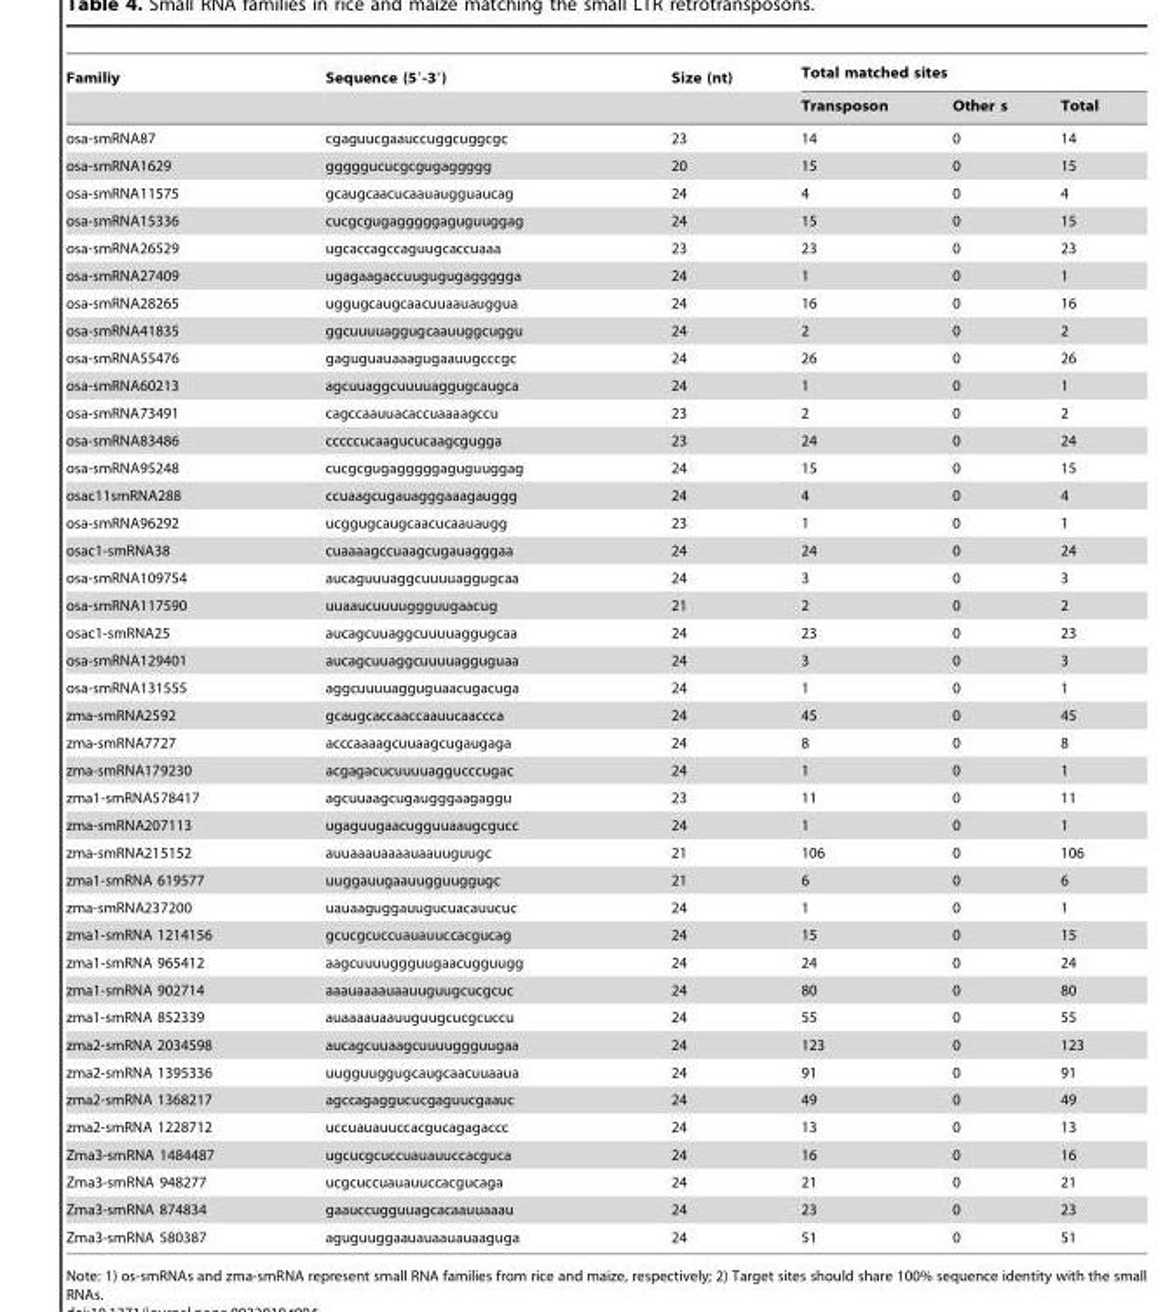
<table><thead><tr><td rowspan="2">Familiy</td><td rowspan="2">Sequence (5′-3′)</td><td rowspan="2">Size (nt)</td><td colspan="3">Total matched sites</td></tr><tr><td>Transposon</td><td>Other s</td><td>Total</td></tr></thead><tbody><tr><td>osa-smRNA87</td><td>cgaguucgaauccuggcuggcgc</td><td>23</td><td>14</td><td>0</td><td>14</td></tr><tr><td>osa-smRNA1629</td><td>gggggucucgcgugaggggg</td><td>20</td><td>15</td><td>0</td><td>15</td></tr><tr><td>osa-smRNA11575</td><td>gcaugcaacucaauaugguaucag</td><td>24</td><td>4</td><td>0</td><td>4</td></tr><tr><td>osa-smRNA15336</td><td>cucgcgugagggggaguguuggag</td><td>24</td><td>15</td><td>0</td><td>15</td></tr><tr><td>osa-smRNA26529</td><td>ugcaccagccaguugcaccuaaa</td><td>23</td><td>23</td><td>0</td><td>23</td></tr><tr><td>osa-smRNA27409</td><td>ugagaagaccuugugugaggggga</td><td>24</td><td>1</td><td>0</td><td>1</td></tr><tr><td>osa-smRNA28265</td><td>uggugcaugcaacuuaauauggua</td><td>24</td><td>16</td><td>0</td><td>16</td></tr><tr><td>osa-smRNA41835</td><td>ggcuuuuaggugcaauuggcuggu</td><td>24</td><td>2</td><td>0</td><td>2</td></tr><tr><td>osa-smRNA55476</td><td>gaguguauaaagugaauugcccgc</td><td>24</td><td>26</td><td>0</td><td>26</td></tr><tr><td>osa-smRNA60213</td><td>agcuuaggcuuuuaggugcaugca</td><td>24</td><td>1</td><td>0</td><td>1</td></tr><tr><td>osa-smRNA73491</td><td>cagccaauuacaccuaaaagccu</td><td>23</td><td>2</td><td>0</td><td>2</td></tr><tr><td>osa-smRNA83486</td><td>cccccucaagucucaagcgugga</td><td>23</td><td>24</td><td>0</td><td>24</td></tr><tr><td>osa-smRNA95248</td><td>cucgcgugagggggaguguuggag</td><td>24</td><td>15</td><td>0</td><td>15</td></tr><tr><td>osac11smRNA288</td><td>ccuaagcugauagggaaagauggg</td><td>24</td><td>4</td><td>0</td><td>4</td></tr><tr><td>osa-smRNA96292</td><td>ucggugcaugcaacucaauaugg</td><td>23</td><td>1</td><td>0</td><td>1</td></tr><tr><td>osac1-smRNA38</td><td>cuaaaagccuaagcugauagggaa</td><td>24</td><td>24</td><td>0</td><td>24</td></tr><tr><td>osa-smRNA109754</td><td>aucaguuuaggcuuuuaggugcaa</td><td>24</td><td>3</td><td>0</td><td>3</td></tr><tr><td>osa-smRNA117590</td><td>uuaaucuuuuggguugaacug</td><td>21</td><td>2</td><td>0</td><td>2</td></tr><tr><td>osac1-smRNA25</td><td>aucagcuuaggcuuuuaggugcaa</td><td>24</td><td>23</td><td>0</td><td>23</td></tr><tr><td>osa-smRNA129401</td><td>aucagcuuaggcuuuuagguguaa</td><td>24</td><td>3</td><td>0</td><td>3</td></tr><tr><td>osa-smRNA131555</td><td>aggcuuuuagguguaacugacuga</td><td>24</td><td>1</td><td>0</td><td>1</td></tr><tr><td>zma-smRNA2592</td><td>gcaugcaccaaccaauucaaccca</td><td>24</td><td>45</td><td>0</td><td>45</td></tr><tr><td>zma-smRNA7727</td><td>acccaaaagcuuaagcugaugaga</td><td>24</td><td>8</td><td>0</td><td>8</td></tr><tr><td>zma-smRNA179230</td><td>acgagacucuuuuaggucccugac</td><td>24</td><td>1</td><td>0</td><td>1</td></tr><tr><td>zma1-smRNA578417</td><td>agcuuaagcugaugggaagaggu</td><td>23</td><td>11</td><td>0</td><td>11</td></tr><tr><td>zma-smRNA207113</td><td>ugaguugaacugguuaaugcgucc</td><td>24</td><td>1</td><td>0</td><td>1</td></tr><tr><td>zma-smRNA215152</td><td>auuaaauaaaauaauuguugc</td><td>21</td><td>106</td><td>0</td><td>106</td></tr><tr><td>zma1-smRNA 619577</td><td>uuggauugaauugguuggugc</td><td>21</td><td>6</td><td>0</td><td>6</td></tr><tr><td>zma-smRNA237200</td><td>uauaaguggauugucuacauucuc</td><td>24</td><td>1</td><td>0</td><td>1</td></tr><tr><td>zma1-smRNA 1214156</td><td>gcucgcuccuauauuccacgucag</td><td>24</td><td>15</td><td>0</td><td>15</td></tr><tr><td>zma1-smRNA 965412</td><td>aagcuuuuggguugaacugguugg</td><td>24</td><td>24</td><td>0</td><td>24</td></tr><tr><td>zma1-smRNA 902714</td><td>aaauaaaauaauuguugcucgcuc</td><td>24</td><td>80</td><td>0</td><td>80</td></tr><tr><td>zma1-smRNA 852339</td><td>auaaaauaauuguugcucgcuccu</td><td>24</td><td>55</td><td>0</td><td>55</td></tr><tr><td>zma2-smRNA 2034598</td><td>aucagcuuaagcuuuuggguugaa</td><td>24</td><td>123</td><td>0</td><td>123</td></tr><tr><td>zma2-smRNA 1395336</td><td>uugguuggugcaugcaacuuaaua</td><td>24</td><td>91</td><td>0</td><td>91</td></tr><tr><td>zma2-smRNA 1368217</td><td>agccagaggucucgaguucgaauc</td><td>24</td><td>49</td><td>0</td><td>49</td></tr><tr><td>zma2-smRNA 1228712</td><td>uccuauauuccacgucagagaccc</td><td>24</td><td>13</td><td>0</td><td>13</td></tr><tr><td>Zma3-smRNA 1484487</td><td>ugcucgcuccuauauuccacguca</td><td>24</td><td>16</td><td>0</td><td>16</td></tr><tr><td>Zma3-smRNA 948277</td><td>ucgcuccuauauuccacgucaga</td><td>24</td><td>21</td><td>0</td><td>21</td></tr><tr><td>Zma3-smRNA 874834</td><td>gaauccugguuagcacaauuaaau</td><td>24</td><td>23</td><td>0</td><td>23</td></tr><tr><td>Zma3-smRNA 580387</td><td>aguguuggaauauaauauaaguga</td><td>24</td><td>51</td><td>0</td><td>51</td></tr></tbody></table>